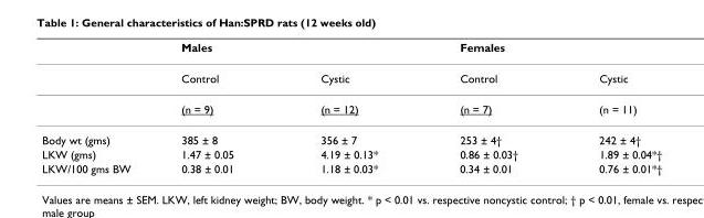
<table><thead><tr><td></td><td>Males</td><td></td><td>Females</td><td></td></tr></thead><tbody><tr><td></td><td>Control</td><td>Cystic</td><td>Control</td><td>Cystic</td></tr><tr><td></td><td>(n = 9)</td><td>(n = 12)</td><td>(n = 7)</td><td>(n = 11)</td></tr><tr><td>Body wt (gms)</td><td>385 ± 8</td><td>356 ± 7</td><td>253 ± 4†</td><td>242 ± 4†</td></tr><tr><td>LKW (gms)</td><td>1.47 ± 0.05</td><td>4.19 ± 0.13*</td><td>0.86 ± 0.03†</td><td>1.89 ± 0.04*†</td></tr><tr><td>LKW/100 gms BW</td><td>0.38 ± 0.01</td><td>1.18 ± 0.03*</td><td>0.34 ± 0.01</td><td>0.76 ± 0.01*†</td></tr></tbody></table>